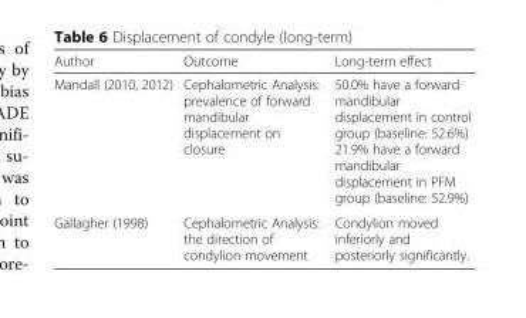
<table><thead><tr><td>Author</td><td>Outcome</td><td>Long-term effect</td></tr></thead><tbody><tr><td>Mandall (2010, 2012)</td><td>Cephalometric Analysis: prevalence of forward mandibular displacement on closure</td><td>50.0% have a forward mandibular displacement in control group (baseline: 52.6%) 21.9% have a forward mandibular displacement in PFM group (baseline: 52.9%)</td></tr><tr><td>Gallagher (1998)</td><td>Cephalometric Analysis: the direction of condylion movement</td><td>Condylion moved inferiorly and posteriorly significantly.</td></tr></tbody></table>